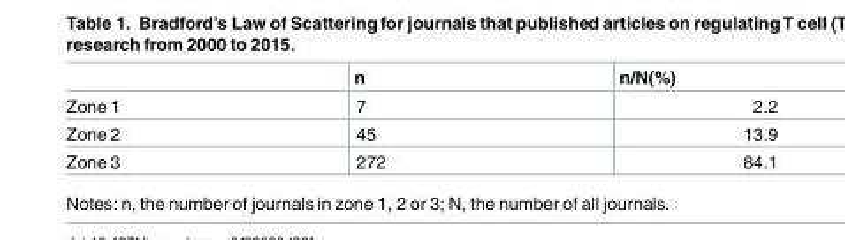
<table><thead><tr><td></td><td>n</td><td>n/N(%)</td></tr></thead><tbody><tr><td>Zone 1</td><td>7</td><td>2.2</td></tr><tr><td>Zone 2</td><td>45</td><td>13.9</td></tr><tr><td>Zone 3</td><td>272</td><td>84.1</td></tr></tbody></table>